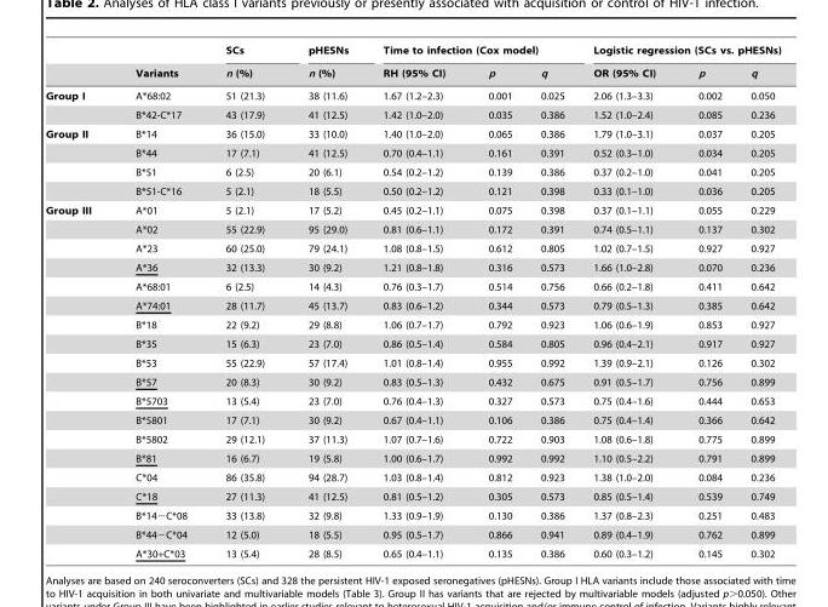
<table><thead><tr><td rowspan="2"></td><td rowspan="2">Variants</td><td rowspan="2">SCs n (%)</td><td rowspan="2">pHESNs n (%)</td><td colspan="3">Time to infection (Cox model)</td><td colspan="3">Logistic regression (SCs vs. pHESNs)</td></tr><tr><td>RH (95% CI)</td><td>p</td><td>q</td><td>OR (95% CI)</td><td>p</td><td>q</td></tr></thead><tbody><tr><td rowspan="2">Group I</td><td>A*68:02</td><td>51 (21.3)</td><td>38 (11.6)</td><td>1.67 (1.2–2.3)</td><td>0.001</td><td>0.025</td><td>2.06 (1.3–3.3)</td><td>0.002</td><td>0.050</td></tr><tr><td>B*42-C*17</td><td>43 (17.9)</td><td>41 (12.5)</td><td>1.42 (1.0–2.0)</td><td>0.035</td><td>0.386</td><td>1.52 (1.0–2.4)</td><td>0.085</td><td>0.236</td></tr><tr><td rowspan="4">Group II</td><td>B*14</td><td>36 (15.0)</td><td>33 (10.0)</td><td>1.40 (1.0–2.0)</td><td>0.065</td><td>0.386</td><td>1.79 (1.0–3.1)</td><td>0.037</td><td>0.205</td></tr><tr><td>B*44</td><td>17 (7.1)</td><td>41 (12.5)</td><td>0.70 (0.4–1.1)</td><td>0.161</td><td>0.391</td><td>0.52 (0.3–1.0)</td><td>0.034</td><td>0.205</td></tr><tr><td>B*51</td><td>6 (2.5)</td><td>20 (6.1)</td><td>0.54 (0.2–1.2)</td><td>0.139</td><td>0.386</td><td>0.37 (0.2–1.0)</td><td>0.041</td><td>0.205</td></tr><tr><td>B*51-C*16</td><td>5 (2.1)</td><td>18 (5.5)</td><td>0.50 (0.2–1.2)</td><td>0.121</td><td>0.398</td><td>0.33 (0.1–1.0)</td><td>0.036</td><td>0.205</td></tr><tr><td rowspan="19">Group III</td><td>A*01</td><td>5 (2.1)</td><td>17 (5.2)</td><td>0.45 (0.2–1.1)</td><td>0.075</td><td>0.398</td><td>0.37 (0.1–1.1)</td><td>0.055</td><td>0.229</td></tr><tr><td>A*02</td><td>55 (22.9)</td><td>95 (29.0)</td><td>0.81 (0.6–1.1)</td><td>0.172</td><td>0.391</td><td>0.74 (0.5–1.1)</td><td>0.137</td><td>0.302</td></tr><tr><td>A*23</td><td>60 (25.0)</td><td>79 (24.1)</td><td>1.08 (0.8–1.5)</td><td>0.612</td><td>0.805</td><td>1.02 (0.7–1.5)</td><td>0.927</td><td>0.927</td></tr><tr><td>A*36</td><td>32 (13.3)</td><td>30 (9.2)</td><td>1.21 (0.8–1.8)</td><td>0.316</td><td>0.573</td><td>1.66 (1.0–2.8)</td><td>0.070</td><td>0.236</td></tr><tr><td>A*68:01</td><td>6 (2.5)</td><td>14 (4.3)</td><td>0.76 (0.3–1.7)</td><td>0.514</td><td>0.756</td><td>0.66 (0.2–1.8)</td><td>0.411</td><td>0.642</td></tr><tr><td>A*74:01</td><td>28 (11.7)</td><td>45 (13.7)</td><td>0.83 (0.6–1.2)</td><td>0.344</td><td>0.573</td><td>0.79 (0.5–1.3)</td><td>0.385</td><td>0.642</td></tr><tr><td>B*18</td><td>22 (9.2)</td><td>29 (8.8)</td><td>1.06 (0.7–1.7)</td><td>0.792</td><td>0.923</td><td>1.06 (0.6–1.9)</td><td>0.853</td><td>0.927</td></tr><tr><td>B*35</td><td>15 (6.3)</td><td>23 (7.0)</td><td>0.86 (0.5–1.4)</td><td>0.584</td><td>0.805</td><td>0.96 (0.4–2.1)</td><td>0.917</td><td>0.927</td></tr><tr><td>B*53</td><td>55 (22.9)</td><td>57 (17.4)</td><td>1.01 (0.8–1.4)</td><td>0.955</td><td>0.992</td><td>1.39 (0.9–2.1)</td><td>0.126</td><td>0.302</td></tr><tr><td>B*57</td><td>20 (8.3)</td><td>30 (9.2)</td><td>0.83 (0.5–1.3)</td><td>0.432</td><td>0.675</td><td>0.91 (0.5–1.7)</td><td>0.756</td><td>0.899</td></tr><tr><td>B*5703</td><td>13 (5.4)</td><td>23 (7.0)</td><td>0.76 (0.4–1.3)</td><td>0.327</td><td>0.573</td><td>0.75 (0.4–1.6)</td><td>0.444</td><td>0.653</td></tr><tr><td>B*5801</td><td>17 (7.1)</td><td>30 (9.2)</td><td>0.67 (0.4–1.1)</td><td>0.106</td><td>0.386</td><td>0.75 (0.4–1.4)</td><td>0.366</td><td>0.642</td></tr><tr><td>B*5802</td><td>29 (12.1)</td><td>37 (11.3)</td><td>1.07 (0.7–1.6)</td><td>0.722</td><td>0.903</td><td>1.08 (0.6–1.8)</td><td>0.775</td><td>0.899</td></tr><tr><td>B*81</td><td>16 (6.7)</td><td>19 (5.8)</td><td>1.00 (0.6–1.7)</td><td>0.992</td><td>0.992</td><td>1.10 (0.5–2.2)</td><td>0.791</td><td>0.899</td></tr><tr><td>C*04</td><td>86 (35.8)</td><td>94 (28.7)</td><td>1.03 (0.8–1.4)</td><td>0.812</td><td>0.923</td><td>1.38 (1.0–2.0)</td><td>0.084</td><td>0.236</td></tr><tr><td>C*18</td><td>27 (11.3)</td><td>41 (12.5)</td><td>0.81 (0.5–1.2)</td><td>0.305</td><td>0.573</td><td>0.85 (0.5–1.4)</td><td>0.539</td><td>0.749</td></tr><tr><td>B*14−C*08</td><td>33 (13.8)</td><td>32 (9.8)</td><td>1.33 (0.9–1.9)</td><td>0.130</td><td>0.386</td><td>1.37 (0.8–2.3)</td><td>0.251</td><td>0.483</td></tr><tr><td>B*44−C*04</td><td>12 (5.0)</td><td>18 (5.5)</td><td>0.95 (0.5–1.7)</td><td>0.866</td><td>0.941</td><td>0.89 (0.4–1.9)</td><td>0.762</td><td>0.899</td></tr><tr><td>A*30+C*03</td><td>13 (5.4)</td><td>28 (8.5)</td><td>0.65 (0.4–1.1)</td><td>0.135</td><td>0.386</td><td>0.60 (0.3–1.2)</td><td>0.145</td><td>0.302</td></tr></tbody></table>